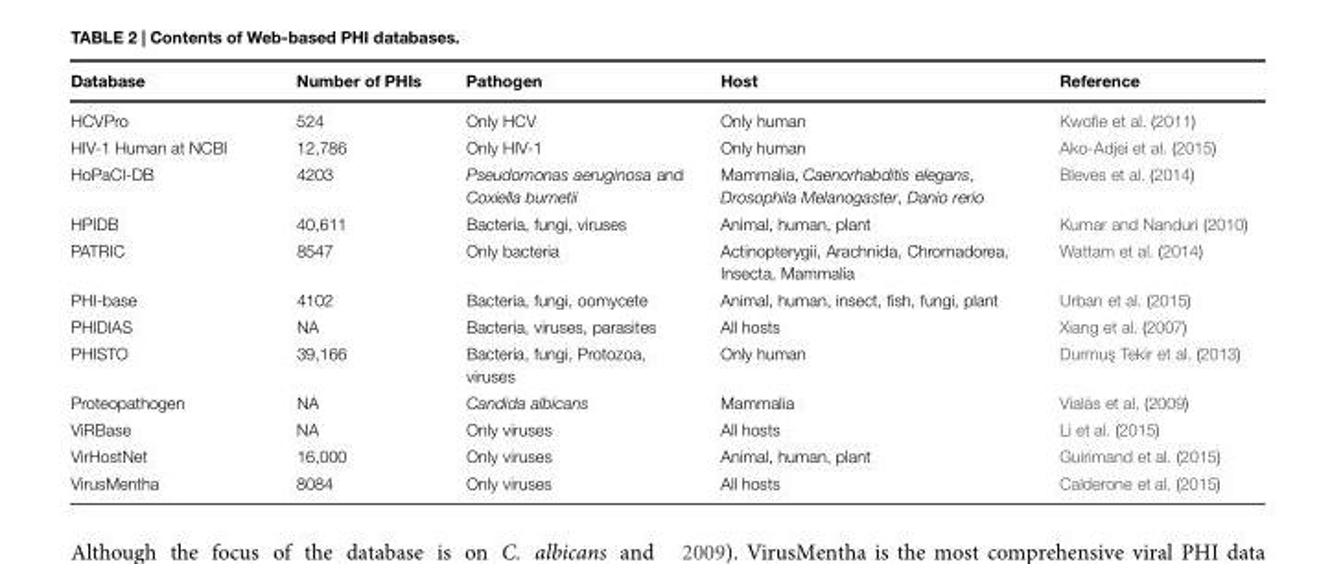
<table><thead><tr><td>Database</td><td>Number of PHIs</td><td>Pathogen</td><td>Host</td><td>Reference</td></tr></thead><tbody><tr><td>HCVPro</td><td>524</td><td>Only HCV</td><td>Only human</td><td>Kwofie et al. (2011)</td></tr><tr><td>HIV-1 Human at NCBI</td><td>12,786</td><td>Only HIV-1</td><td>Only human</td><td>Ako-Adjei et al. (2015)</td></tr><tr><td>HoPaCI-DB</td><td>4203</td><td>Pseudomonas aeruginosa and Coxiella burnetii</td><td>Mammalia, Caenorhabditis elegans, Drosophila Melanogaster, Danio rerio</td><td>Bleves et al. (2014)</td></tr><tr><td>HPIDB</td><td>40,611</td><td>Bacteria, fungi, viruses</td><td>Animal, human, plant</td><td>Kumar and Nanduri (2010)</td></tr><tr><td>PATRIC</td><td>8547</td><td>Only bacteria</td><td>Actinopterygii, Arachnida, Chromadorea, Insecta, Mammalia</td><td>Wattam et al. (2014)</td></tr><tr><td>PHI-base</td><td>4102</td><td>Bacteria, fungi, oomycete</td><td>Animal, human, insect, fish, fungi, plant</td><td>Urban et al. (2015)</td></tr><tr><td>PHIDIAS</td><td>NA</td><td>Bacteria, viruses, parasites</td><td>All hosts</td><td>Xiang et al. (2007)</td></tr><tr><td>PHISTO</td><td>39,166</td><td>Bacteria, fungi, Protozoa, viruses</td><td>Only human</td><td>Durmu¸s Tekir et al. (2013)</td></tr><tr><td>Proteopathogen</td><td>NA</td><td>Candida albicans</td><td>Mammalia</td><td>Vialás et al. (2009)</td></tr><tr><td>ViRBase</td><td>NA</td><td>Only viruses</td><td>All hosts</td><td>Li et al. (2015)</td></tr><tr><td>VirHostNet</td><td>16,000</td><td>Only viruses</td><td>Animal, human, plant</td><td>Guirimand et al. (2015)</td></tr><tr><td>VirusMentha</td><td>8084</td><td>Only viruses</td><td>All hosts</td><td>Calderone et al. (2015)</td></tr></tbody></table>